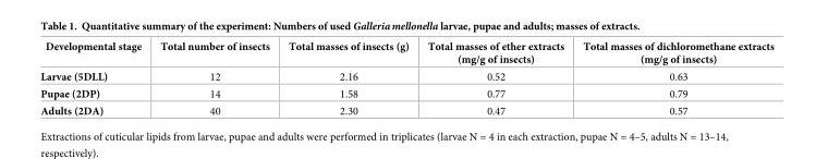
<table><thead><tr><td>Developmental stage</td><td>Total number of insects</td><td>Total masses of insects (g)</td><td>Total masses of ether extracts (mg/g of insects)</td><td>Total masses of dichloromethane extracts (mg/g of insects)</td></tr></thead><tbody><tr><td>Larvae (5DLL)</td><td>12</td><td>2.16</td><td>0.52</td><td>0.63</td></tr><tr><td>Pupae (2DP)</td><td>14</td><td>1.58</td><td>0.77</td><td>0.79</td></tr><tr><td>Adults (2DA)</td><td>40</td><td>2.30</td><td>0.47</td><td>0.57</td></tr></tbody></table>